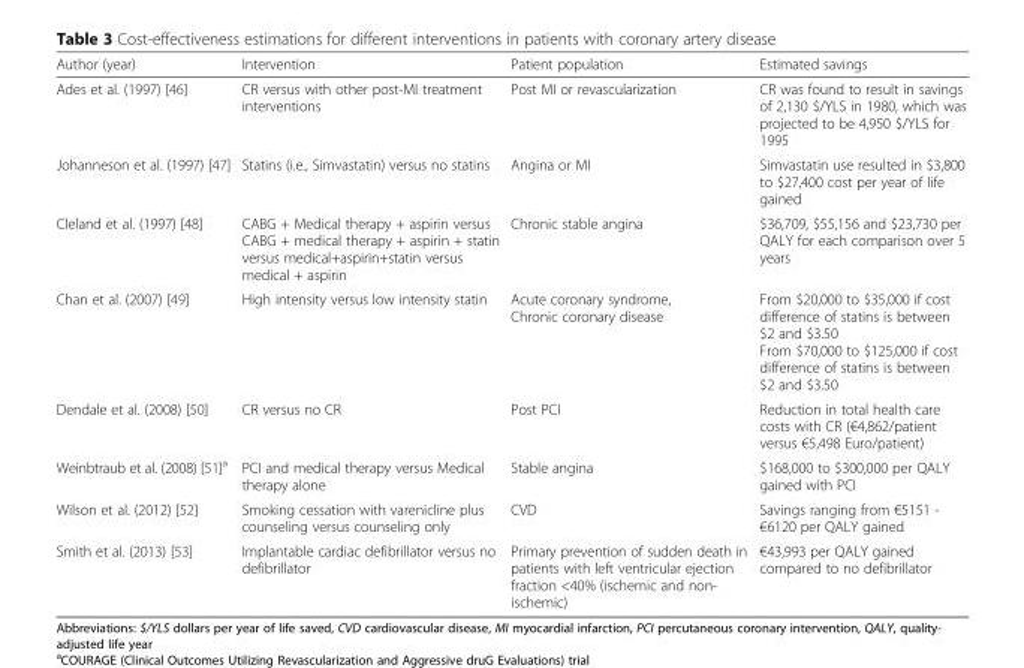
<table><thead><tr><td>Author (year)</td><td>Intervention</td><td>Patient population</td><td>Estimated savings</td></tr></thead><tbody><tr><td>Ades et al. (1997) [46]</td><td>CR versus with other post-MI treatment interventions</td><td>Post MI or revascularization</td><td>CR was found to result in savings of 2,130 $/YLS in 1980, which was projected to be 4,950 $/YLS for 1995</td></tr><tr><td>Johanneson et al. (1997) [47]</td><td>Statins (i.e., Simvastatin) versus no statins</td><td>Angina or MI</td><td>Simvastatin use resulted in $3,800 to $27,400 cost per year of life gained</td></tr><tr><td>Cleland et al. (1997) [48]</td><td>CABG + Medical therapy + aspirin versus CABG + medical therapy + aspirin + statin versus medical+aspirin+statin versus medical + aspirin</td><td>Chronic stable angina</td><td>$36,709, $55,156 and $23,730 per QALY for each comparison over 5 years</td></tr><tr><td>Chan et al. (2007) [49]</td><td>High intensity versus low intensity statin</td><td>Acute coronary syndrome, Chronic coronary disease</td><td>From $20,000 to $35,000 if cost difference of statins is between $2 and $3.50 From $70,000 to $125,000 if cost difference of statins is between $2 and $3.50</td></tr><tr><td>Dendale et al. (2008) [50]</td><td>CR versus no CR</td><td>Post PCI</td><td>Reduction in total health care costs with CR (€4,862/patient versus €5,498 Euro/patient)</td></tr><tr><td>Weinbtraub et al. (2008) [51]<sup>a</sup></td><td>PCI and medical therapy versus Medical therapy alone</td><td>Stable angina</td><td>$168,000 to $300,000 per QALY gained with PCI</td></tr><tr><td>Wilson et al. (2012) [52]</td><td>Smoking cessation with varenicline plus counseling versus counseling only</td><td>CVD</td><td>Savings ranging from €5151 - €6120 per QALY gained</td></tr><tr><td>Smith et al. (2013) [53]</td><td>Implantable cardiac defibrillator versus no defibrillator</td><td>Primary prevention of sudden death in patients with left ventricular ejection fraction &lt;40% (ischemic and non- ischemic)</td><td>€43,993 per QALY gained compared to no defibrillator</td></tr></tbody></table>